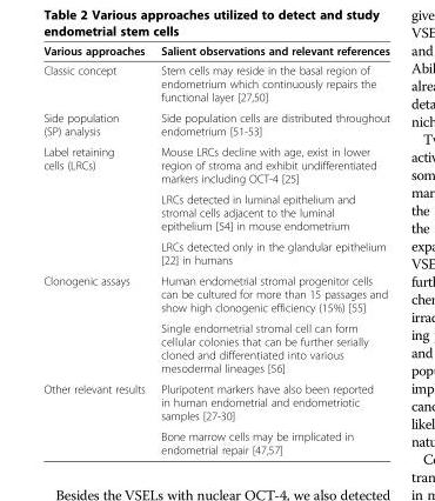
<table><thead><tr><td>Various approaches</td><td>Salient observations and relevant references</td></tr></thead><tbody><tr><td>Classic concept</td><td>Stem cells may reside in the basal region of endometrium which continuously repairs the functional layer [27,50]</td></tr><tr><td>Side population (SP) analysis</td><td>Side population cells are distributed throughout endometrium [51-53]</td></tr><tr><td rowspan="3">Label retaining cells (LRCs)</td><td>Mouse LRCs decline with age, exist in lower region of stroma and exhibit undifferentiated markers including OCT-4 [25]</td></tr><tr><td>LRCs detected in luminal epithelium and stromal cells adjacent to the luminal epithelium [54] in mouse endometrium</td></tr><tr><td>LRCs detected only in the glandular epithelium [22] in humans</td></tr><tr><td rowspan="2">Clonogenic assays</td><td>Human endometrial stromal progenitor cells can be cultured for more than 15 passages and show high clonogenic efficiency (15%) [55]</td></tr><tr><td>Single endometrial stromal cell can form cellular colonies that can be further serially cloned and differentiated into various mesodermal lineages [56]</td></tr><tr><td rowspan="2">Other relevant results</td><td>Pluripotent markers have also been reported in human endometrial and endometriotic samples [27-30]</td></tr><tr><td>Bone marrow cells may be implicated in endometrial repair [47,57]</td></tr></tbody></table>